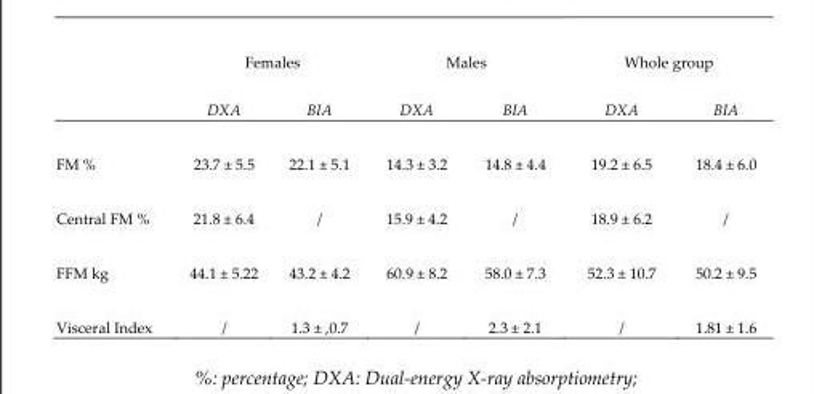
<table><thead><tr><td rowspan="2"></td><td colspan="2">Females</td><td colspan="2">Males</td><td colspan="2">Whole group</td></tr><tr><td>DXA</td><td>BIA</td><td>DXA</td><td>BIA</td><td>DXA</td><td>BIA</td></tr></thead><tbody><tr><td>FM %</td><td>23.7 ± 5.5</td><td>22.1 ± 5.1</td><td>14.3 ± 3.2</td><td>14.8 ± 4.4</td><td>19.2 ± 6.5</td><td>18.4 ± 6.0</td></tr><tr><td>Central FM %</td><td>21.8 ± 6.4</td><td>/</td><td>15.9 ± 4.2</td><td>/</td><td>18.9 ± 6.2</td><td>/</td></tr><tr><td>FFM kg</td><td>44.1 ± 5.22</td><td>43.2 ± 4.2</td><td>60.9 ± 8.2</td><td>58.0 ± 7.3</td><td>52.3 ± 10.7</td><td>50.2 ± 9.5</td></tr><tr><td>Visceral Index</td><td>/</td><td>1.3 ± ,0.7</td><td>/</td><td>2.3 ± 2.1</td><td>/</td><td>1.81 ± 1.6</td></tr></tbody></table>